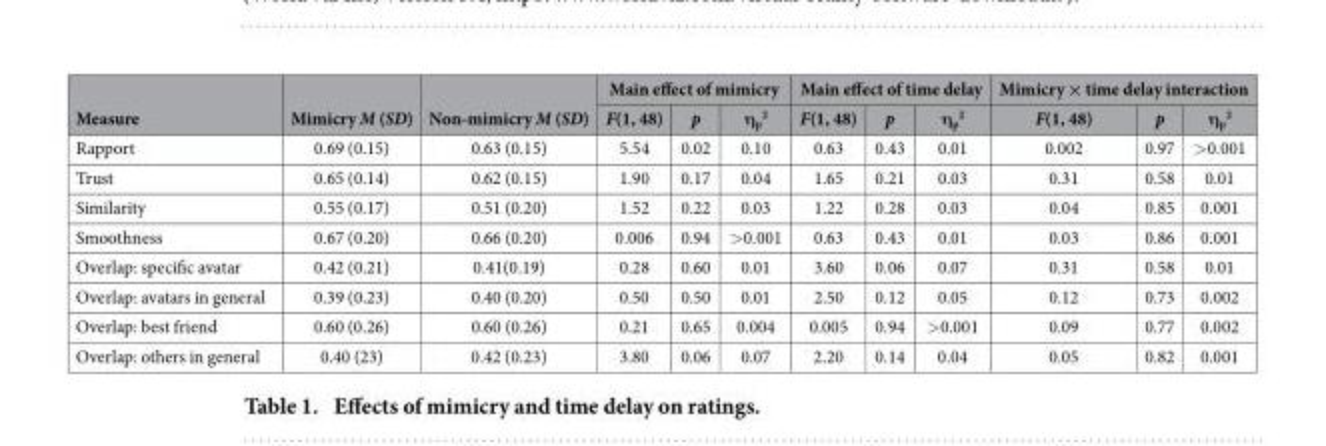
<table><thead><tr><td rowspan="2">Measure</td><td rowspan="2">Mimicry M (SD)</td><td rowspan="2">Non-mimicry M (SD)</td><td colspan="3">Main effect of mimicry</td><td colspan="3">Main effect of time delay</td><td colspan="3">Mimicry × time delay interaction</td></tr><tr><td>F(1, 48)</td><td>p</td><td>η<sub>p</sub> <sup>2</sup></td><td>F(1, 48)</td><td>p</td><td>η<sub>p</sub> <sup>2</sup></td><td>F(1, 48)</td><td>p</td><td>η<sub>p</sub> <sup>2</sup></td></tr></thead><tbody><tr><td>Rapport</td><td>0.69 (0.15)</td><td>0.63 (0.15)</td><td>5.54</td><td>0.02</td><td>0.10</td><td>0.63</td><td>0.43</td><td>0.01</td><td>0.002</td><td>0.97</td><td>&gt; 0.001</td></tr><tr><td>Trust</td><td>0.65 (0.14)</td><td>0.62 (0.15)</td><td>1.90</td><td>0.17</td><td>0.04</td><td>1.65</td><td>0.21</td><td>0.03</td><td>0.31</td><td>0.58</td><td>0.01</td></tr><tr><td>Similarity</td><td>0.55 (0.17)</td><td>0.51 (0.20)</td><td>1.52</td><td>0.22</td><td>0.03</td><td>1.22</td><td>0.28</td><td>0.03</td><td>0.04</td><td>0.85</td><td>0.001</td></tr><tr><td>Smoothness</td><td>0.67 (0.20)</td><td>0.66 (0.20)</td><td>0.006</td><td>0.94</td><td>&gt; 0.001</td><td>0.63</td><td>0.43</td><td>0.01</td><td>0.03</td><td>0.86</td><td>0.001</td></tr><tr><td>Overlap: specific avatar</td><td>0.42 (0.21)</td><td>0.41(0.19)</td><td>0.28</td><td>0.60</td><td>0.01</td><td>3.60</td><td>0.06</td><td>0.07</td><td>0.31</td><td>0.58</td><td>0.01</td></tr><tr><td>Overlap: avatars in general</td><td>0.39 (0.23)</td><td>0.40 (0.20)</td><td>0.50</td><td>0.50</td><td>0.01</td><td>2.50</td><td>0.12</td><td>0.05</td><td>0.12</td><td>0.73</td><td>0.002</td></tr><tr><td>Overlap: best friend</td><td>0.60 (0.26)</td><td>0.60 (0.26)</td><td>0.21</td><td>0.65</td><td>0.004</td><td>0.005</td><td>0.94</td><td>&gt; 0.001</td><td>0.09</td><td>0.77</td><td>0.002</td></tr><tr><td>Overlap: others in general</td><td>0.40 (23)</td><td>0.42 (0.23)</td><td>3.80</td><td>0.06</td><td>0.07</td><td>2.20</td><td>0.14</td><td>0.04</td><td>0.05</td><td>0.82</td><td>0.001</td></tr></tbody></table>